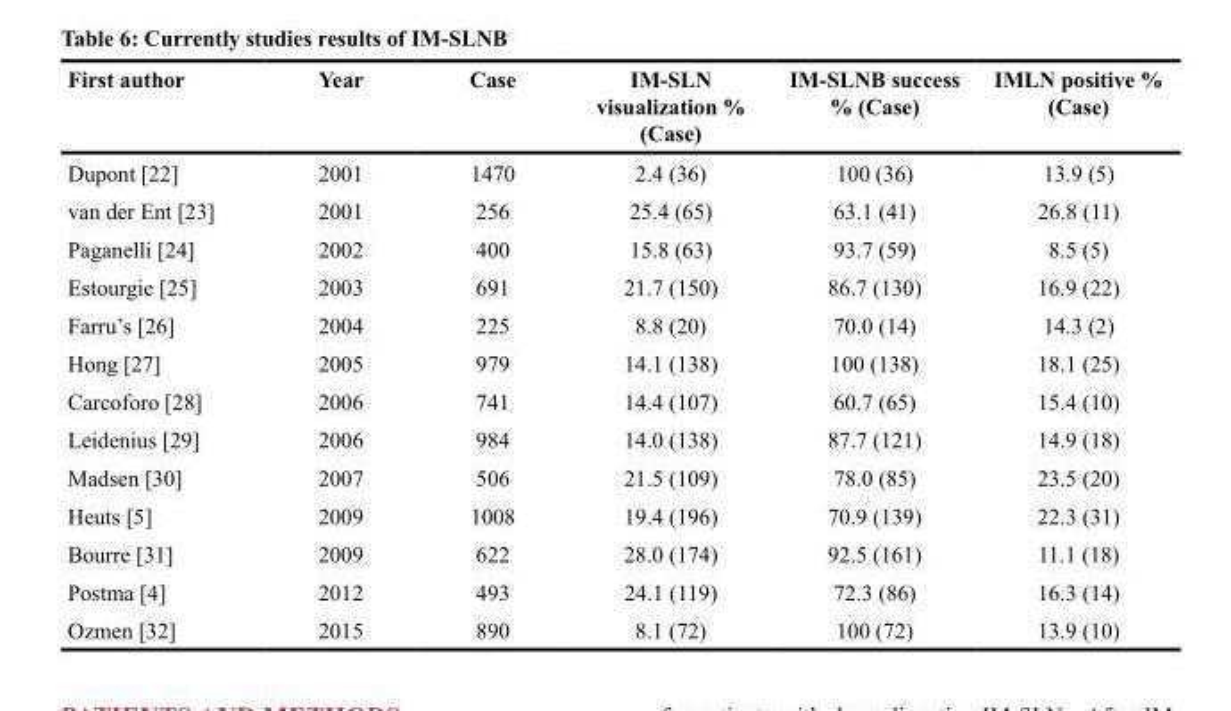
<table><thead><tr><td>First author</td><td>Year</td><td>Case</td><td>IM-SLN visualization % (Case)</td><td>IM-SLNB success % (Case)</td><td>IMLN positive % (Case)</td></tr></thead><tbody><tr><td>Dupont [22]</td><td>2001</td><td>1470</td><td>2.4 (36)</td><td>100 (36)</td><td>13.9 (5)</td></tr><tr><td>van der Ent [23]</td><td>2001</td><td>256</td><td>25.4 (65)</td><td>63.1 (41)</td><td>26.8 (11)</td></tr><tr><td>Paganelli [24]</td><td>2002</td><td>400</td><td>15.8 (63)</td><td>93.7 (59)</td><td>8.5 (5)</td></tr><tr><td>Estourgie [25]</td><td>2003</td><td>691</td><td>21.7 (150)</td><td>86.7 (130)</td><td>16.9 (22)</td></tr><tr><td>Farru’s [26]</td><td>2004</td><td>225</td><td>8.8 (20)</td><td>70.0 (14)</td><td>14.3 (2)</td></tr><tr><td>Hong [27]</td><td>2005</td><td>979</td><td>14.1 (138)</td><td>100 (138)</td><td>18.1 (25)</td></tr><tr><td>Carcoforo [28]</td><td>2006</td><td>741</td><td>14.4 (107)</td><td>60.7 (65)</td><td>15.4 (10)</td></tr><tr><td>Leidenius [29]</td><td>2006</td><td>984</td><td>14.0 (138)</td><td>87.7 (121)</td><td>14.9 (18)</td></tr><tr><td>Madsen [30]</td><td>2007</td><td>506</td><td>21.5 (109)</td><td>78.0 (85)</td><td>23.5 (20)</td></tr><tr><td>Heuts [5]</td><td>2009</td><td>1008</td><td>19.4 (196)</td><td>70.9 (139)</td><td>22.3 (31)</td></tr><tr><td>Bourre [31]</td><td>2009</td><td>622</td><td>28.0 (174)</td><td>92.5 (161)</td><td>11.1 (18)</td></tr><tr><td>Postma [4]</td><td>2012</td><td>493</td><td>24.1 (119)</td><td>72.3 (86)</td><td>16.3 (14)</td></tr><tr><td>Ozmen [32]</td><td>2015</td><td>890</td><td>8.1 (72)</td><td>100 (72)</td><td>13.9 (10)</td></tr></tbody></table>